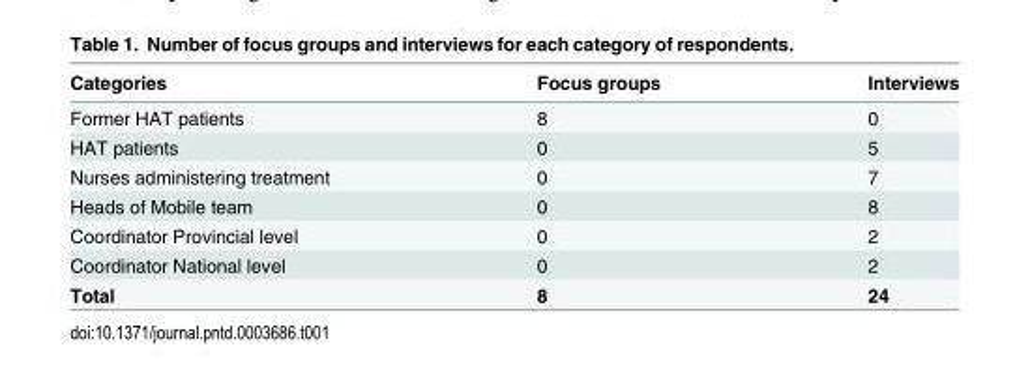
<table><thead><tr><td>Categories</td><td>Focus groups</td><td>Interviews</td></tr></thead><tbody><tr><td>Former HAT patients</td><td>8</td><td>0</td></tr><tr><td>HAT patients</td><td>0</td><td>5</td></tr><tr><td>Nurses administering treatment</td><td>0</td><td>7</td></tr><tr><td>Heads of Mobile team</td><td>0</td><td>8</td></tr><tr><td>Coordinator Provincial level</td><td>0</td><td>2</td></tr><tr><td>Coordinator National level</td><td>0</td><td>2</td></tr><tr><td>Total</td><td>8</td><td>24</td></tr></tbody></table>